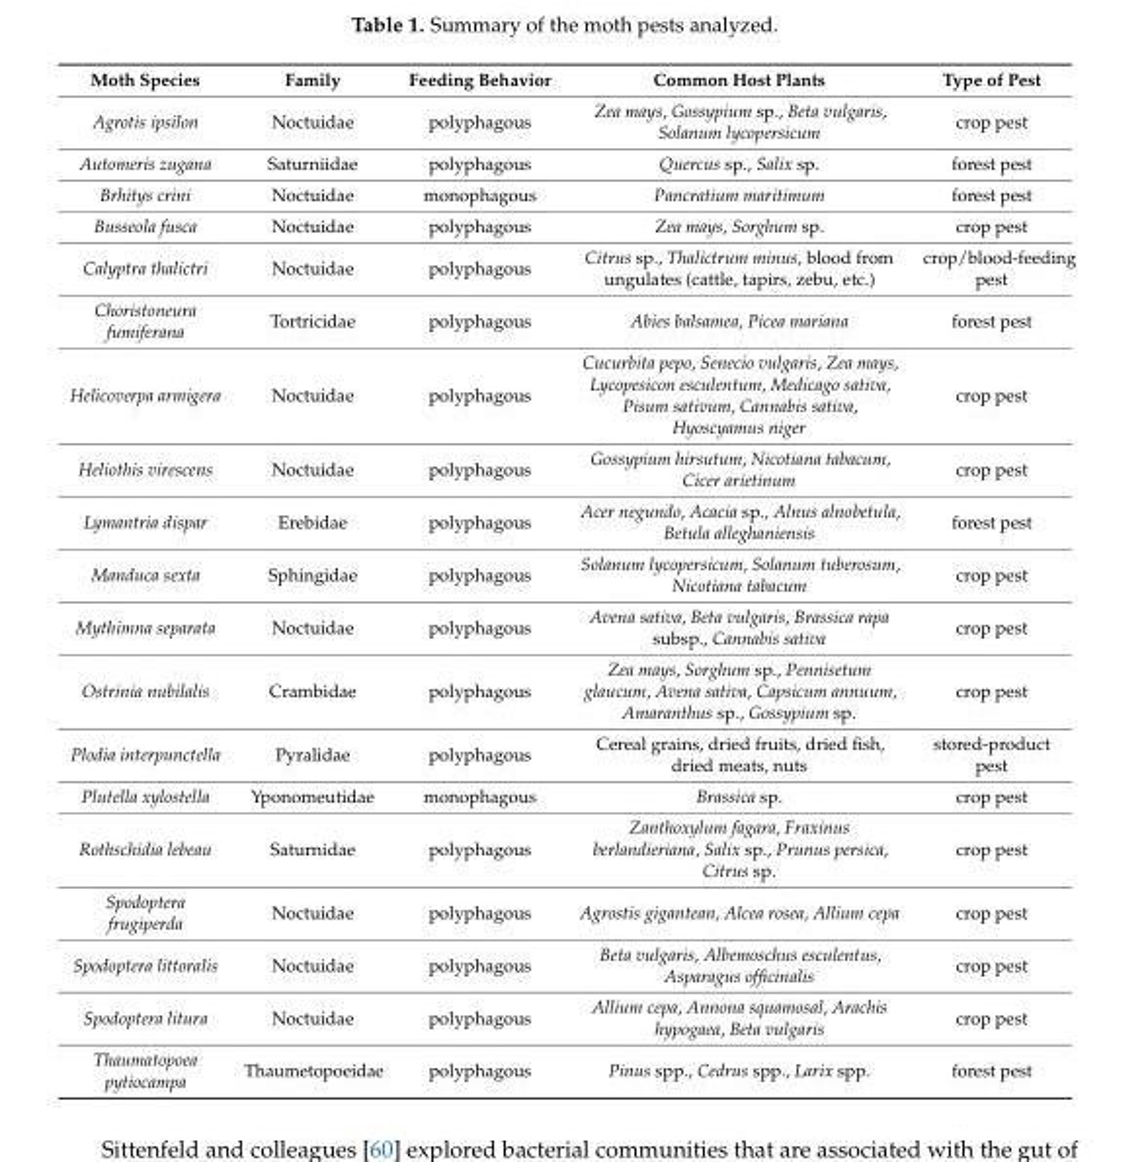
<table><thead><tr><td>Moth Species</td><td>Family</td><td>Feeding Behavior</td><td>Common Host Plants</td><td>Type of Pest</td></tr></thead><tbody><tr><td>Agrotis ipsilon</td><td>Noctuidae</td><td>polyphagous</td><td>Zea mays, Gossypium sp., Beta vulgaris, Solanum lycopersicum</td><td>crop pest</td></tr><tr><td>Automeris zugana</td><td>Saturniidae</td><td>polyphagous</td><td>Quercus sp., Salix sp.</td><td>forest pest</td></tr><tr><td>Brhitys crini</td><td>Noctuidae</td><td>monophagous</td><td>Pancratium maritimum</td><td>forest pest</td></tr><tr><td>Busseola fusca</td><td>Noctuidae</td><td>polyphagous</td><td>Zea mays, Sorghum sp.</td><td>crop pest</td></tr><tr><td>Calyptra thalictri</td><td>Noctuidae</td><td>polyphagous</td><td>Citrus sp., Thalictrum minus, blood from ungulates (cattle, tapirs, zebu, etc.)</td><td>crop/blood-feeding pest</td></tr><tr><td>Choristoneura fumiferana</td><td>Tortricidae</td><td>polyphagous</td><td>Abies balsamea, Picea mariana</td><td>forest pest</td></tr><tr><td>Helicoverpa armigera</td><td>Noctuidae</td><td>polyphagous</td><td>Cucurbita pepo, Senecio vulgaris, Zea mays, Lycopesicon esculentum, Medicago sativa, Pisum sativum, Cannabis sativa, Hyoscyamus niger</td><td>crop pest</td></tr><tr><td>Heliothis virescens</td><td>Noctuidae</td><td>polyphagous</td><td>Gossypium hirsutum, Nicotiana tabacum, Cicer arietinum</td><td>crop pest</td></tr><tr><td>Lymantria dispar</td><td>Erebidae</td><td>polyphagous</td><td>Acer negundo, Acacia sp., Alnus alnobetula, Betula alleghaniensis</td><td>forest pest</td></tr><tr><td>Manduca sexta</td><td>Sphingidae</td><td>polyphagous</td><td>Solanum lycopersicum, Solanum tuberosum, Nicotiana tabacum</td><td>crop pest</td></tr><tr><td>Mythimna separata</td><td>Noctuidae</td><td>polyphagous</td><td>Avena sativa, Beta vulgaris, Brassica rapa subsp., Cannabis sativa</td><td>crop pest</td></tr><tr><td>Ostrinia nubilalis</td><td>Crambidae</td><td>polyphagous</td><td>Zea mays, Sorghum sp., Pennisetum glaucum, Avena sativa, Capsicum annuum, Amaranthus sp., Gossypium sp.</td><td>crop pest</td></tr><tr><td>Plodia interpunctella</td><td>Pyralidae</td><td>polyphagous</td><td>Cereal grains, dried fruits, dried fish, dried meats, nuts</td><td>stored-product pest</td></tr><tr><td>Plutella xylostella</td><td>Yponomeutidae</td><td>monophagous</td><td>Brassica sp.</td><td>crop pest</td></tr><tr><td>Rothschidia lebeau</td><td>Saturnidae</td><td>polyphagous</td><td>Zanthoxylum fagara, Fraxinus berlandieriana, Salix sp., Prunus persica, Citrus sp.</td><td>crop pest</td></tr><tr><td>Spodoptera frugiperda</td><td>Noctuidae</td><td>polyphagous</td><td>Agrostis gigantean, Alcea rosea, Allium cepa</td><td>crop pest</td></tr><tr><td>Spodoptera littoralis</td><td>Noctuidae</td><td>polyphagous</td><td>Beta vulgaris, Albemoschus esculentus, Asparagus officinalis</td><td>crop pest</td></tr><tr><td>Spodoptera litura</td><td>Noctuidae</td><td>polyphagous</td><td>Allium cepa, Annona squamosal, Arachis hypogaea, Beta vulgaris</td><td>crop pest</td></tr><tr><td>Thaumatopoea pytiocampa</td><td>Thaumetopoeidae</td><td>polyphagous</td><td>Pinus spp., Cedrus spp., Larix spp.</td><td>forest pest</td></tr></tbody></table>